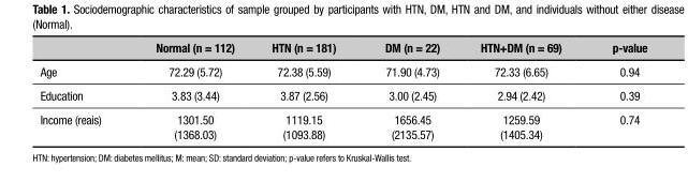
<table><thead><tr><td></td><td>Normal (n = 112)</td><td>HTN (n = 181)</td><td>DM (n = 22)</td><td>HTN+DM (n = 69)</td><td>p-value</td></tr></thead><tbody><tr><td>Age</td><td>72.29 (5.72)</td><td>72.38 (5.59)</td><td>71.90 (4.73)</td><td>72.33 (6.65)</td><td>0.94</td></tr><tr><td>Education</td><td>3.83 (3.44)</td><td>3.87 (2.56)</td><td>3.00 (2.45)</td><td>2.94 (2.42)</td><td>0.39</td></tr><tr><td>Income (reais)</td><td>1301.50 (1368.03)</td><td>1119.15 (1093.88)</td><td>1656.45 (2135.57)</td><td>1259.59 (1405.34)</td><td>0.74</td></tr></tbody></table>